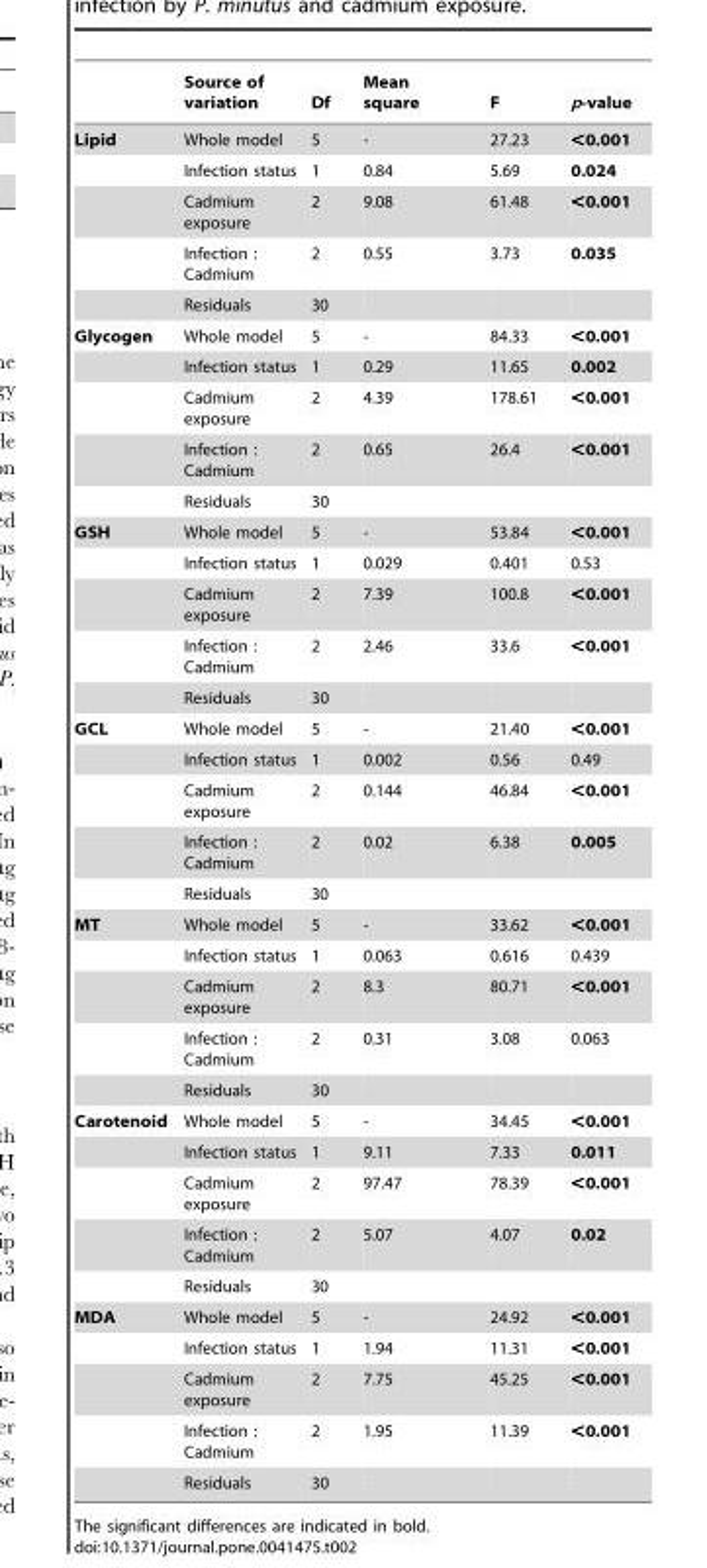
<table><thead><tr><td></td><td>Source of variation</td><td>Df</td><td>Mean square</td><td>F</td><td>p-value</td></tr></thead><tbody><tr><td rowspan="5">Lipid</td><td>Whole model</td><td>5</td><td>-</td><td>27.23</td><td>&lt;0.001</td></tr><tr><td>Infection status</td><td>1</td><td>0.84</td><td>5.69</td><td>0.024</td></tr><tr><td>Cadmium exposure</td><td>2</td><td>9.08</td><td>61.48</td><td>&lt;0.001</td></tr><tr><td>Infection : Cadmium</td><td>2</td><td>0.55</td><td>3.73</td><td>0.035</td></tr><tr><td>Residuals</td><td>30</td><td></td><td></td><td></td></tr><tr><td rowspan="5">Glycogen</td><td>Whole model</td><td>5</td><td>-</td><td>84.33</td><td>&lt;0.001</td></tr><tr><td>Infection status</td><td>1</td><td>0.29</td><td>11.65</td><td>0.002</td></tr><tr><td>Cadmium exposure</td><td>2</td><td>4.39</td><td>178.61</td><td>&lt;0.001</td></tr><tr><td>Infection : Cadmium</td><td>2</td><td>0.65</td><td>26.4</td><td>&lt;0.001</td></tr><tr><td>Residuals</td><td>30</td><td></td><td></td><td></td></tr><tr><td rowspan="5">GSH</td><td>Whole model</td><td>5</td><td>-</td><td>53.84</td><td>&lt;0.001</td></tr><tr><td>Infection status</td><td>1</td><td>0.029</td><td>0.401</td><td>0.53</td></tr><tr><td>Cadmium exposure</td><td>2</td><td>7.39</td><td>100.8</td><td>&lt;0.001</td></tr><tr><td>Infection : Cadmium</td><td>2</td><td>2.46</td><td>33.6</td><td>&lt;0.001</td></tr><tr><td>Residuals</td><td>30</td><td></td><td></td><td></td></tr><tr><td rowspan="5">GCL</td><td>Whole model</td><td>5</td><td>-</td><td>21.40</td><td>&lt;0.001</td></tr><tr><td>Infection status</td><td>1</td><td>0.002</td><td>0.56</td><td>0.49</td></tr><tr><td>Cadmium exposure</td><td>2</td><td>0.144</td><td>46.84</td><td>&lt;0.001</td></tr><tr><td>Infection : Cadmium</td><td>2</td><td>0.02</td><td>6.38</td><td>0.005</td></tr><tr><td>Residuals</td><td>30</td><td></td><td></td><td></td></tr><tr><td rowspan="5">MT</td><td>Whole model</td><td>5</td><td>-</td><td>33.62</td><td>&lt;0.001</td></tr><tr><td>Infection status</td><td>1</td><td>0.063</td><td>0.616</td><td>0.439</td></tr><tr><td>Cadmium exposure</td><td>2</td><td>8.3</td><td>80.71</td><td>&lt;0.001</td></tr><tr><td>Infection : Cadmium</td><td>2</td><td>0.31</td><td>3.08</td><td>0.063</td></tr><tr><td>Residuals</td><td>30</td><td></td><td></td><td></td></tr><tr><td rowspan="5">Carotenoid</td><td>Whole model</td><td>5</td><td>-</td><td>34.45</td><td>&lt;0.001</td></tr><tr><td>Infection status</td><td>1</td><td>9.11</td><td>7.33</td><td>0.011</td></tr><tr><td>Cadmium exposure</td><td>2</td><td>97.47</td><td>78.39</td><td>&lt;0.001</td></tr><tr><td>Infection : Cadmium</td><td>2</td><td>5.07</td><td>4.07</td><td>0.02</td></tr><tr><td>Residuals</td><td>30</td><td></td><td></td><td></td></tr><tr><td rowspan="5">MDA</td><td>Whole model</td><td>5</td><td>-</td><td>24.92</td><td>&lt;0.001</td></tr><tr><td>Infection status</td><td>1</td><td>1.94</td><td>11.31</td><td>&lt;0.001</td></tr><tr><td>Cadmium exposure</td><td>2</td><td>7.75</td><td>45.25</td><td>&lt;0.001</td></tr><tr><td>Infection : Cadmium</td><td>2</td><td>1.95</td><td>11.39</td><td>&lt;0.001</td></tr><tr><td>Residuals</td><td>30</td><td></td><td></td><td></td></tr></tbody></table>